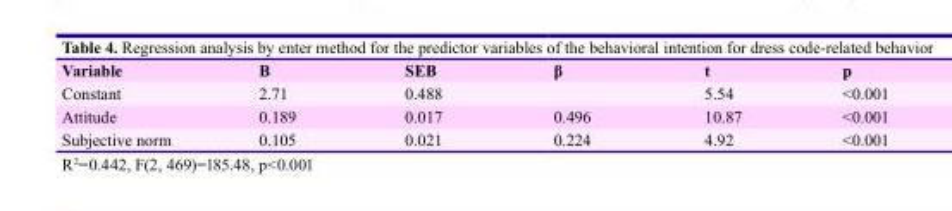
<table><thead><tr><td>Variable</td><td>B</td><td>SEB</td><td>β</td><td>t</td><td>p</td></tr></thead><tbody><tr><td>Constant</td><td>2.71</td><td>0.488</td><td></td><td>5.54</td><td>&lt;0.001</td></tr><tr><td>Attitude</td><td>0.189</td><td>0.017</td><td>0.496</td><td>10.87</td><td>&lt;0.001</td></tr><tr><td>Subjective norm</td><td>0.105</td><td>0.021</td><td>0.224</td><td>4.92</td><td>&lt;0.001</td></tr></tbody></table>